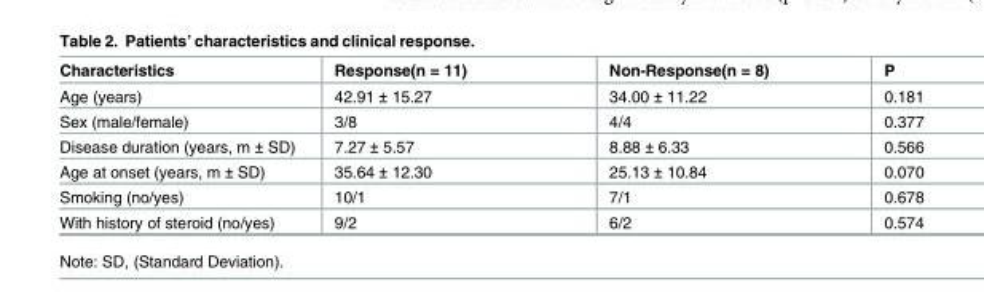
<table><thead><tr><td>Characteristics</td><td>Response(n = 11)</td><td>Non-Response(n = 8)</td><td>P</td></tr></thead><tbody><tr><td>Age (years)</td><td>42.91 ± 15.27</td><td>34.00 ± 11.22</td><td>0.181</td></tr><tr><td>Sex (male/female)</td><td>3/8</td><td>4/4</td><td>0.377</td></tr><tr><td>Disease duration (years, m ± SD)</td><td>7.27 ± 5.57</td><td>8.88 ± 6.33</td><td>0.566</td></tr><tr><td>Age at onset (years, m ± SD)</td><td>35.64 ± 12.30</td><td>25.13 ± 10.84</td><td>0.070</td></tr><tr><td>Smoking (no/yes)</td><td>10/1</td><td>7/1</td><td>0.678</td></tr><tr><td>With history of steroid (no/yes)</td><td>9/2</td><td>6/2</td><td>0.574</td></tr></tbody></table>